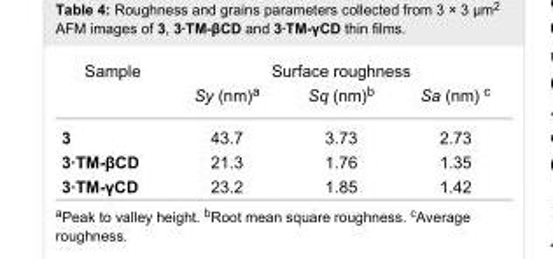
<table><tbody><tr><td rowspan="2">Sample</td><td colspan="3">Surface roughness</td></tr><tr><td>Sy (nm)<sup>a</sup></td><td>Sq (nm)<sup>b</sup></td><td>Sa (nm) <sup>c</sup></td></tr><tr><td>3</td><td>43.7</td><td>3.73</td><td>2.73</td></tr><tr><td>3·TM-βCD</td><td>21.3</td><td>1.76</td><td>1.35</td></tr><tr><td>3·TM-γCD</td><td>23.2</td><td>1.85</td><td>1.42</td></tr></tbody></table>